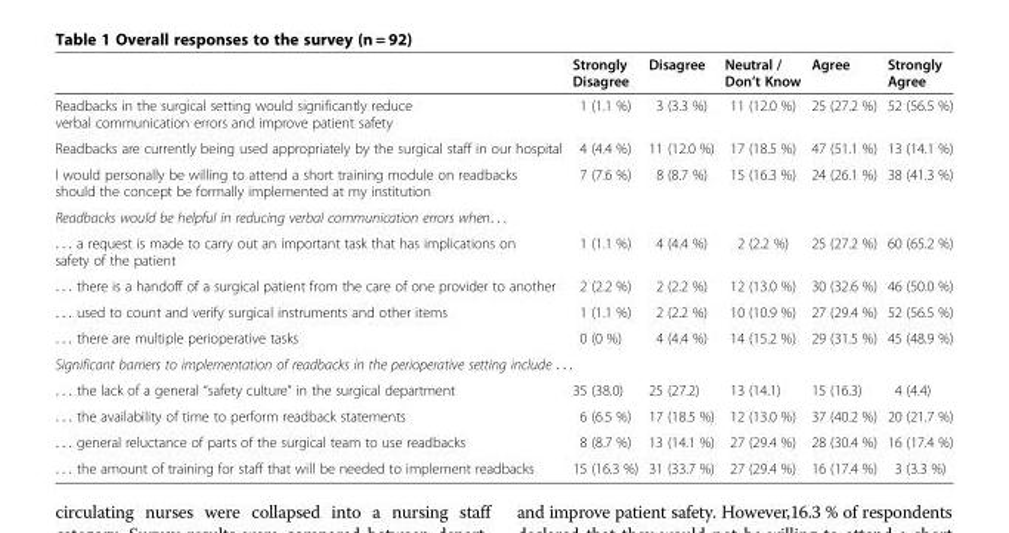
<table><thead><tr><td></td><td>Strongly Disagree</td><td>Disagree</td><td>Neutral / Don’t Know</td><td>Agree</td><td>Strongly Agree</td></tr></thead><tbody><tr><td>Readbacks in the surgical setting would significantly reduce verbal communication errors and improve patient safety</td><td>1 (1.1 %)</td><td>3 (3.3 %)</td><td>11 (12.0 %)</td><td>25 (27.2 %)</td><td>52 (56.5 %)</td></tr><tr><td>Readbacks are currently being used appropriately by the surgical staff in our hospital</td><td>4 (4.4 %)</td><td>11 (12.0 %)</td><td>17 (18.5 %)</td><td>47 (51.1 %)</td><td>13 (14.1 %)</td></tr><tr><td>I would personally be willing to attend a short training module on readbacks should the concept be formally implemented at my institution</td><td>7 (7.6 %)</td><td>8 (8.7 %)</td><td>15 (16.3 %)</td><td>24 (26.1 %)</td><td>38 (41.3 %)</td></tr><tr><td colspan="6">Readbacks would be helpful in reducing verbal communication errors when. . .</td></tr><tr><td>. . . a request is made to carry out an important task that has implications on safety of the patient</td><td>1 (1.1 %)</td><td>4 (4.4 %)</td><td>2 (2.2 %)</td><td>25 (27.2 %)</td><td>60 (65.2 %)</td></tr><tr><td>. . . there is a handoff of a surgical patient from the care of one provider to another</td><td>2 (2.2 %)</td><td>2 (2.2 %)</td><td>12 (13.0 %)</td><td>30 (32.6 %)</td><td>46 (50.0 %)</td></tr><tr><td>. . . used to count and verify surgical instruments and other items</td><td>1 (1.1 %)</td><td>2 (2.2 %)</td><td>10 (10.9 %)</td><td>27 (29.4 %)</td><td>52 (56.5 %)</td></tr><tr><td>. . . there are multiple perioperative tasks</td><td>0 (0 %)</td><td>4 (4.4 %)</td><td>14 (15.2 %)</td><td>29 (31.5 %)</td><td>45 (48.9 %)</td></tr><tr><td colspan="6">Significant barriers to implementation of readbacks in the perioperative setting include . . .</td></tr><tr><td>. . . the lack of a general “safety culture” in the surgical department</td><td>35 (38.0)</td><td>25 (27.2)</td><td>13 (14.1)</td><td>15 (16.3)</td><td>4 (4.4)</td></tr><tr><td>. . . the availability of time to perform readback statements</td><td>6 (6.5 %)</td><td>17 (18.5 %)</td><td>12 (13.0 %)</td><td>37 (40.2 %)</td><td>20 (21.7 %)</td></tr><tr><td>. . . general reluctance of parts of the surgical team to use readbacks</td><td>8 (8.7 %)</td><td>13 (14.1 %)</td><td>27 (29.4 %)</td><td>28 (30.4 %)</td><td>16 (17.4 %)</td></tr><tr><td>. . . the amount of training for staff that will be needed to implement readbacks</td><td>15 (16.3 %)</td><td>31 (33.7 %)</td><td>27 (29.4 %)</td><td>16 (17.4 %)</td><td>3 (3.3 %)</td></tr></tbody></table>